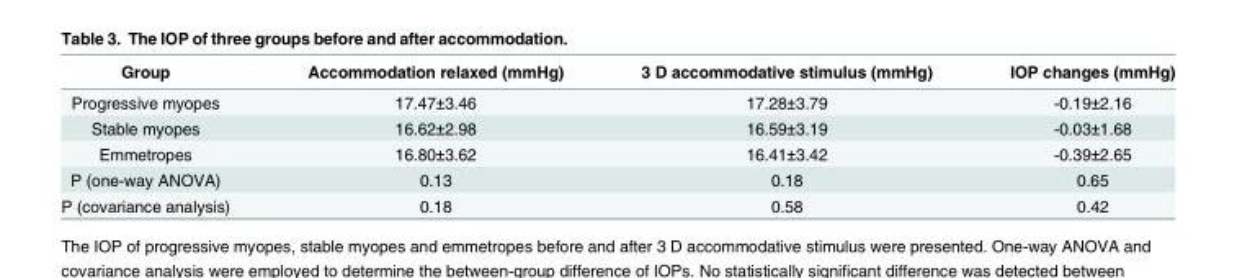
<table><thead><tr><td>Group</td><td>Accommodation relaxed (mmHg)</td><td>3 D accommodative stimulus (mmHg)</td><td>IOP changes (mmHg)</td></tr></thead><tbody><tr><td>Progressive myopes</td><td>17.47±3.46</td><td>17.28±3.79</td><td>-0.19±2.16</td></tr><tr><td>Stable myopes</td><td>16.62±2.98</td><td>16.59±3.19</td><td>-0.03±1.68</td></tr><tr><td>Emmetropes</td><td>16.80±3.62</td><td>16.41±3.42</td><td>-0.39±2.65</td></tr><tr><td>P (one-way ANOVA)</td><td>0.13</td><td>0.18</td><td>0.65</td></tr><tr><td>P (covariance analysis)</td><td>0.18</td><td>0.58</td><td>0.42</td></tr></tbody></table>